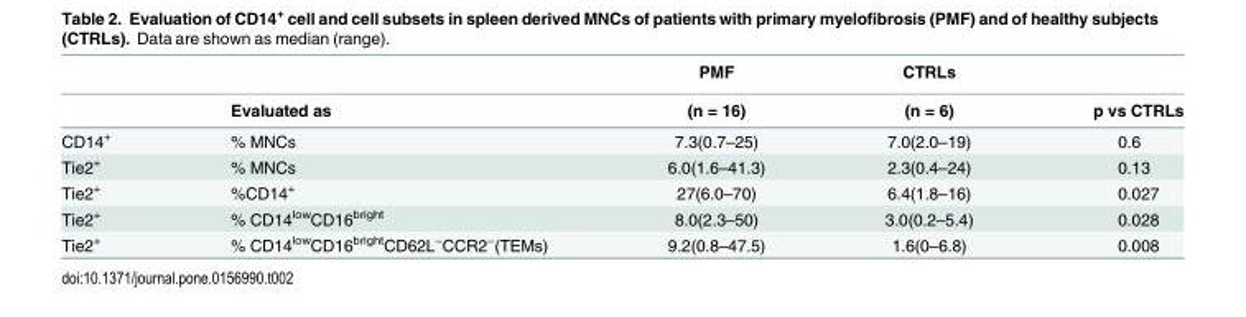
<table><thead><tr><td rowspan="2"></td><td rowspan="2">Evaluated as</td><td rowspan="2">PMF (n = 16)</td><td rowspan="2">CTRLs (n = 6)</td><td rowspan="2">p vs CTRLs</td></tr><tr></tr></thead><tbody><tr><td>CD14<sup>+</sup></td><td>% MNCs</td><td>7.3(0.7–25)</td><td>7.0(2.0–19)</td><td>0.6</td></tr><tr><td>Tie2<sup>+</sup></td><td>% MNCs</td><td>6.0(1.6–41.3)</td><td>2.3(0.4–24)</td><td>0.13</td></tr><tr><td>Tie2<sup>+</sup></td><td>%CD14<sup>+</sup></td><td>27(6.0–70)</td><td>6.4(1.8–16)</td><td>0.027</td></tr><tr><td>Tie2<sup>+</sup></td><td>% CD14<sup>low</sup>CD16<sup>bright</sup></td><td>8.0(2.3–50)</td><td>3.0(0.2–5.4)</td><td>0.028</td></tr><tr><td>Tie2<sup>+</sup></td><td>% CD14<sup>low</sup>CD16<sup>bright</sup>CD62L<sup>−</sup>CCR2<sup>−</sup>(TEMs)</td><td>9.2(0.8–47.5)</td><td>1.6(0–6.8)</td><td>0.008</td></tr></tbody></table>